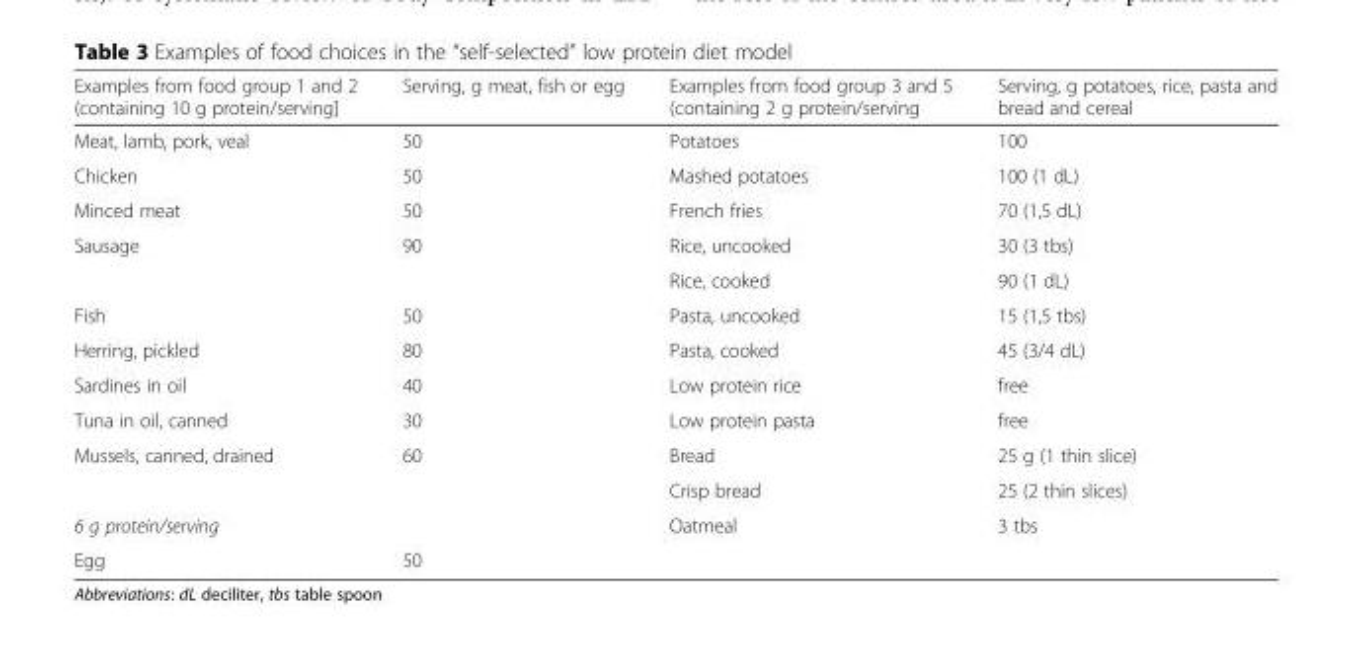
<table><thead><tr><td>Examples from food group 1 and 2 (containing 10 g protein/serving]</td><td>Serving, g meat, fish or egg</td><td>Examples from food group 3 and 5 (containing 2 g protein/serving</td><td>Serving, g potatoes, rice, pasta and bread and cereal</td></tr></thead><tbody><tr><td>Meat, lamb, pork, veal</td><td>50</td><td>Potatoes</td><td>100</td></tr><tr><td>Chicken</td><td>50</td><td>Mashed potatoes</td><td>100 (1 dL)</td></tr><tr><td>Minced meat</td><td>50</td><td>French fries</td><td>70 (1,5 dL)</td></tr><tr><td rowspan="2">Sausage</td><td>90</td><td>Rice, uncooked</td><td>30 (3 tbs)</td></tr><tr><td></td><td>Rice, cooked</td><td>90 (1 dL)</td></tr><tr><td>Fish</td><td>50</td><td>Pasta, uncooked</td><td>15 (1,5 tbs)</td></tr><tr><td>Herring, pickled</td><td>80</td><td>Pasta, cooked</td><td>45 (3/4 dL)</td></tr><tr><td>Sardines in oil</td><td>40</td><td>Low protein rice</td><td>free</td></tr><tr><td>Tuna in oil, canned</td><td>30</td><td>Low protein pasta</td><td>free</td></tr><tr><td rowspan="2">Mussels, canned, drained</td><td>60</td><td>Bread</td><td>25 g (1 thin slice)</td></tr><tr><td></td><td>Crisp bread</td><td>25 (2 thin slices)</td></tr><tr><td>6 g protein/serving</td><td></td><td>Oatmeal</td><td>3 tbs</td></tr><tr><td>Egg</td><td>50</td><td></td><td></td></tr></tbody></table>